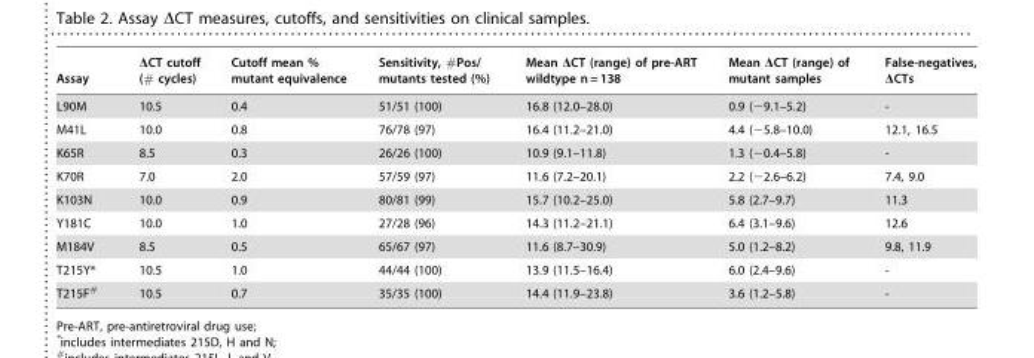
<table><thead><tr><td>Assay</td><td>ΔCT cutoff (# cycles)</td><td>Cutoff mean % mutant equivalence</td><td>Sensitivity, #Pos/ mutants tested (%)</td><td>Mean ΔCT (range) of pre-ART wildtype n = 138</td><td>Mean ΔCT (range) of mutant samples</td><td>False-negatives, ΔCTs</td></tr></thead><tbody><tr><td>L90M</td><td>10.5</td><td>0.4</td><td>51/51 (100)</td><td>16.8 (12.0–28.0)</td><td>0.9 (−9.1–5.2)</td><td>-</td></tr><tr><td>M41L</td><td>10.0</td><td>0.8</td><td>76/78 (97)</td><td>16.4 (11.2–21.0)</td><td>4.4 (−5.8–10.0)</td><td>12.1, 16.5</td></tr><tr><td>K65R</td><td>8.5</td><td>0.3</td><td>26/26 (100)</td><td>10.9 (9.1–11.8)</td><td>1.3 (−0.4–5.8)</td><td>-</td></tr><tr><td>K70R</td><td>7.0</td><td>2.0</td><td>57/59 (97)</td><td>11.6 (7.2–20.1)</td><td>2.2 (−2.6–6.2)</td><td>7.4, 9.0</td></tr><tr><td>K103N</td><td>10.0</td><td>0.9</td><td>80/81 (99)</td><td>15.7 (10.2–25.0)</td><td>5.8 (2.7–9.7)</td><td>11.3</td></tr><tr><td>Y181C</td><td>10.0</td><td>1.0</td><td>27/28 (96)</td><td>14.3 (11.2–21.1)</td><td>6.4 (3.1–9.6)</td><td>12.6</td></tr><tr><td>M184V</td><td>8.5</td><td>0.5</td><td>65/67 (97)</td><td>11.6 (8.7–30.9)</td><td>5.0 (1.2–8.2)</td><td>9.8, 11.9</td></tr><tr><td>T215Y*</td><td>10.5</td><td>1.0</td><td>44/44 (100)</td><td>13.9 (11.5–16.4)</td><td>6.0 (2.4–9.6)</td><td>-</td></tr><tr><td>T215F#</td><td>10.5</td><td>0.7</td><td>35/35 (100)</td><td>14.4 (11.9–23.8)</td><td>3.6 (1.2–5.8)</td><td>-</td></tr></tbody></table>